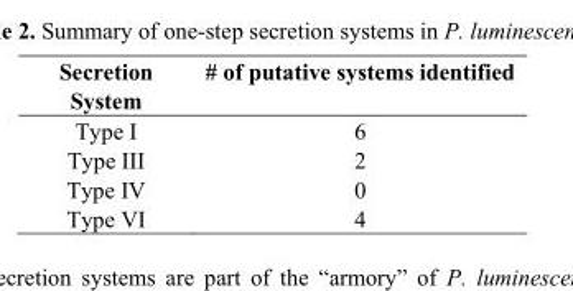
<table><thead><tr><td>Secretion System</td><td># of putative systems identified</td></tr></thead><tbody><tr><td>Type I</td><td>6</td></tr><tr><td>Type III</td><td>2</td></tr><tr><td>Type IV</td><td>0</td></tr><tr><td>Type VI</td><td>4</td></tr></tbody></table>